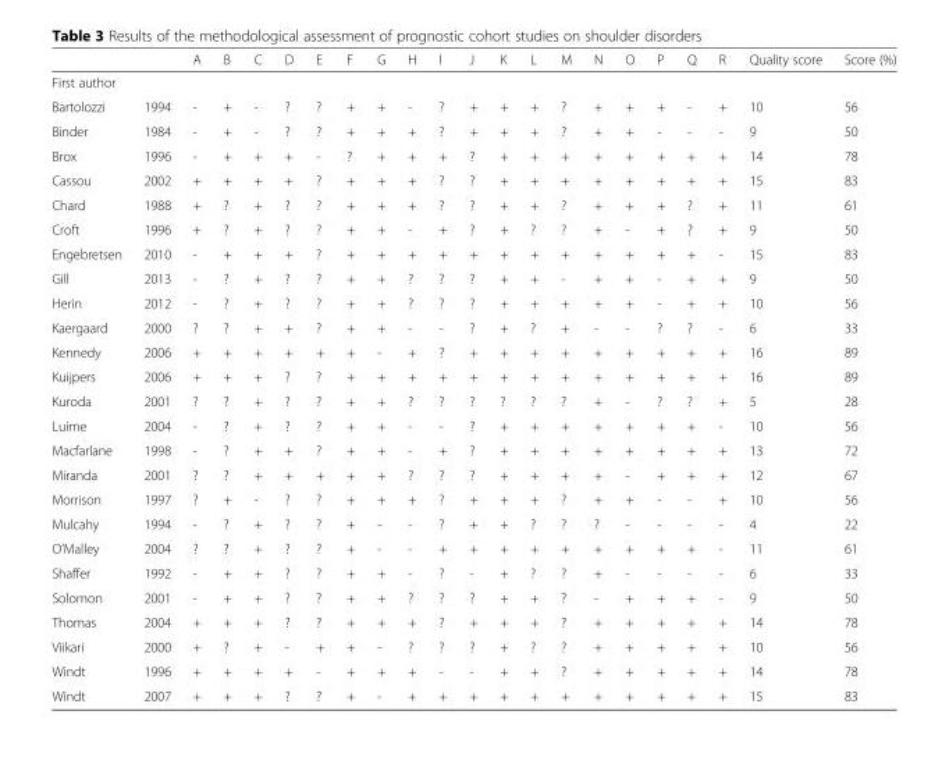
<table><thead><tr><td></td><td></td><td>A</td><td>B</td><td>C</td><td>D</td><td>E</td><td>F</td><td>G</td><td>H</td><td>I</td><td>J</td><td>K</td><td>L</td><td>M</td><td>N</td><td>O</td><td>P</td><td>Q</td><td>R</td><td>Quality score</td><td>Score (%)</td></tr></thead><tbody><tr><td colspan="22">First author</td></tr><tr><td>Bartolozzi</td><td>1994</td><td>-</td><td>+</td><td>-</td><td>?</td><td>?</td><td>+</td><td>+</td><td>-</td><td>?</td><td>+</td><td>+</td><td>+</td><td>?</td><td>+</td><td>+</td><td>+</td><td>-</td><td>+</td><td>10</td><td>56</td></tr><tr><td>Binder</td><td>1984</td><td>-</td><td>+</td><td>-</td><td>?</td><td>?</td><td>+</td><td>+</td><td>+</td><td>?</td><td>+</td><td>+</td><td>+</td><td>?</td><td>+</td><td>+</td><td>-</td><td>-</td><td>-</td><td>9</td><td>50</td></tr><tr><td>Brox</td><td>1996</td><td>-</td><td>+</td><td>+</td><td>+</td><td>-</td><td>?</td><td>+</td><td>+</td><td>+</td><td>?</td><td>+</td><td>+</td><td>+</td><td>+</td><td>+</td><td>+</td><td>+</td><td>+</td><td>14</td><td>78</td></tr><tr><td>Cassou</td><td>2002</td><td>+</td><td>+</td><td>+</td><td>+</td><td>?</td><td>+</td><td>+</td><td>+</td><td>?</td><td>?</td><td>+</td><td>+</td><td>+</td><td>+</td><td>+</td><td>+</td><td>+</td><td>+</td><td>15</td><td>83</td></tr><tr><td>Chard</td><td>1988</td><td>+</td><td>?</td><td>+</td><td>?</td><td>?</td><td>+</td><td>+</td><td>+</td><td>?</td><td>?</td><td>+</td><td>+</td><td>?</td><td>+</td><td>+</td><td>+</td><td>?</td><td>+</td><td>11</td><td>61</td></tr><tr><td>Croft</td><td>1996</td><td>+</td><td>?</td><td>+</td><td>?</td><td>?</td><td>+</td><td>+</td><td>-</td><td>+</td><td>?</td><td>+</td><td>?</td><td>?</td><td>+</td><td>-</td><td>+</td><td>?</td><td>+</td><td>9</td><td>50</td></tr><tr><td>Engebretsen</td><td>2010</td><td>-</td><td>+</td><td>+</td><td>+</td><td>?</td><td>+</td><td>+</td><td>+</td><td>+</td><td>+</td><td>+</td><td>+</td><td>+</td><td>+</td><td>+</td><td>+</td><td>+</td><td>-</td><td>15</td><td>83</td></tr><tr><td>Gill</td><td>2013</td><td>-</td><td>?</td><td>+</td><td>?</td><td>?</td><td>+</td><td>+</td><td>?</td><td>?</td><td>?</td><td>+</td><td>+</td><td>-</td><td>+</td><td>+</td><td>-</td><td>+</td><td>+</td><td>9</td><td>50</td></tr><tr><td>Herin</td><td>2012</td><td>-</td><td>?</td><td>+</td><td>?</td><td>?</td><td>+</td><td>+</td><td>?</td><td>?</td><td>?</td><td>+</td><td>+</td><td>+</td><td>+</td><td>+</td><td>-</td><td>+</td><td>+</td><td>10</td><td>56</td></tr><tr><td>Kaergaard</td><td>2000</td><td>?</td><td>?</td><td>+</td><td>+</td><td>?</td><td>+</td><td>+</td><td>-</td><td>-</td><td>?</td><td>+</td><td>?</td><td>+</td><td>-</td><td>-</td><td>?</td><td>?</td><td>-</td><td>6</td><td>33</td></tr><tr><td>Kennedy</td><td>2006</td><td>+</td><td>+</td><td>+</td><td>+</td><td>+</td><td>+</td><td>-</td><td>+</td><td>?</td><td>+</td><td>+</td><td>+</td><td>+</td><td>+</td><td>+</td><td>+</td><td>+</td><td>+</td><td>16</td><td>89</td></tr><tr><td>Kuijpers</td><td>2006</td><td>+</td><td>+</td><td>+</td><td>?</td><td>?</td><td>+</td><td>+</td><td>+</td><td>+</td><td>+</td><td>+</td><td>+</td><td>+</td><td>+</td><td>+</td><td>+</td><td>+</td><td>+</td><td>16</td><td>89</td></tr><tr><td>Kuroda</td><td>2001</td><td>?</td><td>?</td><td>+</td><td>?</td><td>?</td><td>+</td><td>+</td><td>?</td><td>?</td><td>?</td><td>?</td><td>?</td><td>?</td><td>+</td><td>-</td><td>?</td><td>?</td><td>+</td><td>5</td><td>28</td></tr><tr><td>Luime</td><td>2004</td><td>-</td><td>?</td><td>+</td><td>?</td><td>?</td><td>+</td><td>+</td><td>-</td><td>-</td><td>?</td><td>+</td><td>+</td><td>+</td><td>+</td><td>+</td><td>+</td><td>+</td><td>-</td><td>10</td><td>56</td></tr><tr><td>Macfarlane</td><td>1998</td><td>-</td><td>?</td><td>+</td><td>+</td><td>?</td><td>+</td><td>+</td><td>-</td><td>+</td><td>?</td><td>+</td><td>+</td><td>+</td><td>+</td><td>+</td><td>+</td><td>+</td><td>+</td><td>13</td><td>72</td></tr><tr><td>Miranda</td><td>2001</td><td>?</td><td>?</td><td>+</td><td>+</td><td>+</td><td>+</td><td>+</td><td>?</td><td>?</td><td>?</td><td>+</td><td>+</td><td>+</td><td>+</td><td>-</td><td>+</td><td>+</td><td>+</td><td>12</td><td>67</td></tr><tr><td>Morrison</td><td>1997</td><td>?</td><td>+</td><td>-</td><td>?</td><td>?</td><td>+</td><td>+</td><td>+</td><td>?</td><td>+</td><td>+</td><td>+</td><td>?</td><td>+</td><td>+</td><td>-</td><td>-</td><td>+</td><td>10</td><td>56</td></tr><tr><td>Mulcahy</td><td>1994</td><td>-</td><td>?</td><td>+</td><td>?</td><td>?</td><td>+</td><td>-</td><td>-</td><td>?</td><td>+</td><td>+</td><td>?</td><td>?</td><td>?</td><td>-</td><td>-</td><td>-</td><td>-</td><td>4</td><td>22</td></tr><tr><td>O’Malley</td><td>2004</td><td>?</td><td>?</td><td>+</td><td>?</td><td>?</td><td>+</td><td>-</td><td>-</td><td>+</td><td>+</td><td>+</td><td>+</td><td>+</td><td>+</td><td>+</td><td>+</td><td>+</td><td>-</td><td>11</td><td>61</td></tr><tr><td>Shaffer</td><td>1992</td><td>-</td><td>+</td><td>+</td><td>?</td><td>?</td><td>+</td><td>+</td><td>-</td><td>?</td><td>-</td><td>+</td><td>?</td><td>?</td><td>+</td><td>-</td><td>-</td><td>-</td><td>-</td><td>6</td><td>33</td></tr><tr><td>Solomon</td><td>2001</td><td>-</td><td>+</td><td>+</td><td>?</td><td>?</td><td>+</td><td>+</td><td>?</td><td>?</td><td>?</td><td>+</td><td>+</td><td>?</td><td>-</td><td>+</td><td>+</td><td>+</td><td>-</td><td>9</td><td>50</td></tr><tr><td>Thomas</td><td>2004</td><td>+</td><td>+</td><td>+</td><td>?</td><td>?</td><td>+</td><td>+</td><td>+</td><td>?</td><td>+</td><td>+</td><td>+</td><td>?</td><td>+</td><td>+</td><td>+</td><td>+</td><td>+</td><td>14</td><td>78</td></tr><tr><td>Viikari</td><td>2000</td><td>+</td><td>?</td><td>+</td><td>-</td><td>+</td><td>+</td><td>-</td><td>?</td><td>?</td><td>?</td><td>+</td><td>?</td><td>?</td><td>+</td><td>+</td><td>+</td><td>+</td><td>+</td><td>10</td><td>56</td></tr><tr><td>Windt</td><td>1996</td><td>+</td><td>+</td><td>+</td><td>+</td><td>-</td><td>+</td><td>+</td><td>+</td><td>-</td><td>-</td><td>+</td><td>+</td><td>?</td><td>+</td><td>+</td><td>+</td><td>+</td><td>+</td><td>14</td><td>78</td></tr><tr><td>Windt</td><td>2007</td><td>+</td><td>+</td><td>+</td><td>?</td><td>?</td><td>+</td><td>-</td><td>+</td><td>+</td><td>+</td><td>+</td><td>+</td><td>+</td><td>+</td><td>+</td><td>+</td><td>+</td><td>+</td><td>15</td><td>83</td></tr></tbody></table>